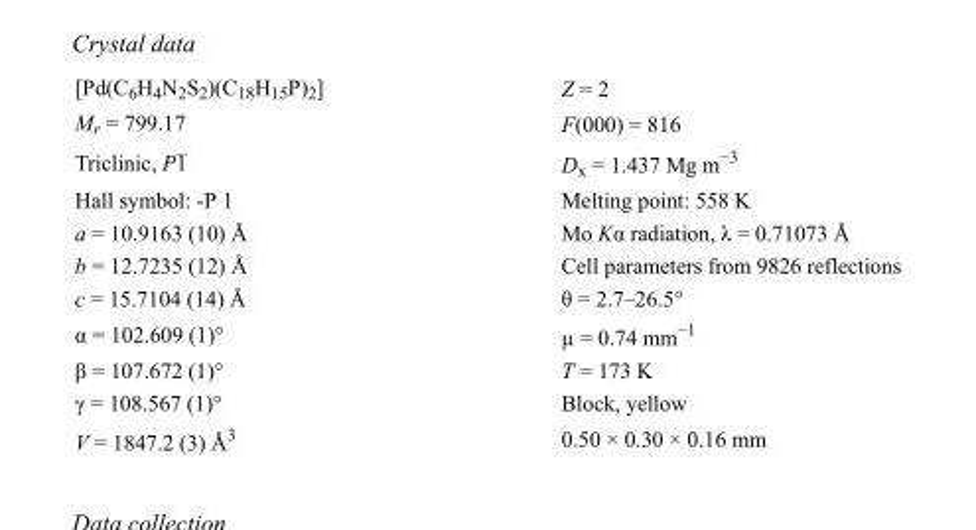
<table><tbody><tr><td>[Pd(C<sub>6</sub>H<sub>4</sub>N<sub>2</sub>S<sub>2</sub>)(C<sub>18</sub>H<sub>15</sub>P)<sub>2</sub>]</td><td>Z = 2</td></tr><tr><td>M<sub>r</sub> = 799.17</td><td>F(000) = 816</td></tr><tr><td>Triclinic, P1</td><td>D<sub>x</sub> = 1.437 Mg m<sup>−3</sup></td></tr><tr><td>Hall symbol: -P 1</td><td>Melting point: 558 K</td></tr><tr><td>a = 10.9163 (10) Å</td><td>Mo Kα radiation, λ = 0.71073 Å</td></tr><tr><td>b = 12.7235 (12) Å</td><td>Cell parameters from 9826 reflections</td></tr><tr><td>c = 15.7104 (14) Å</td><td>θ = 2.7–26.5°</td></tr><tr><td>α = 102.609 (1)°</td><td>µ = 0.74 mm<sup>−1</sup></td></tr><tr><td>β = 107.672 (1)°</td><td>T = 173 K</td></tr><tr><td>γ = 108.567 (1)°</td><td>Block, yellow</td></tr><tr><td>V = 1847.2 (3) Å<sup>3</sup></td><td>0.50 × 0.30 × 0.16 mm</td></tr></tbody></table>